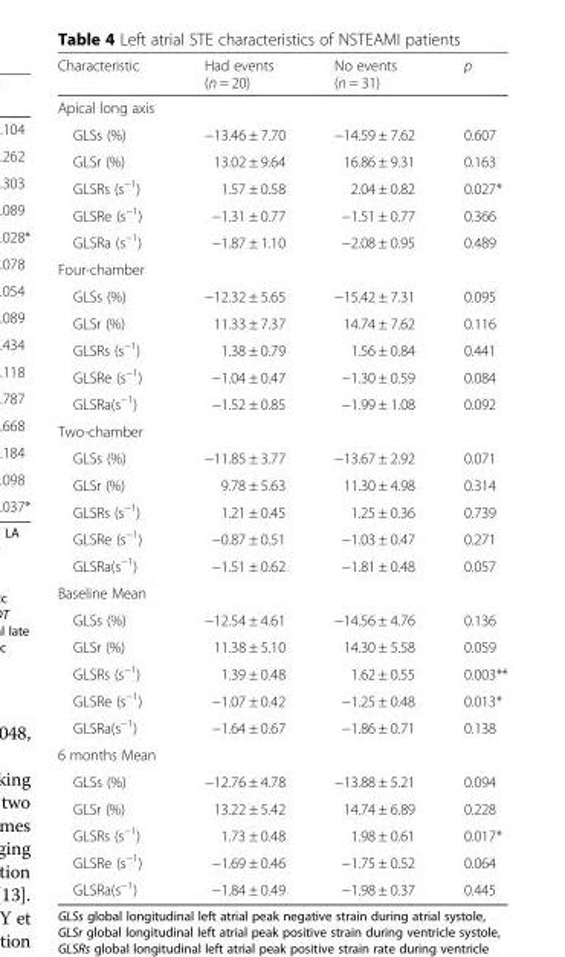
<table><thead><tr><td>Characteristic</td><td>Had events (n = 20)</td><td>No events (n = 31)</td><td>p</td></tr></thead><tbody><tr><td colspan="4">Apical long axis</td></tr><tr><td>GLSs (%)</td><td>−13.46 ± 7.70</td><td>−14.59 ± 7.62</td><td>0.607</td></tr><tr><td>GLSr (%)</td><td>13.02 ± 9.64</td><td>16.86 ± 9.31</td><td>0.163</td></tr><tr><td>GLSRs (s<sup>−1</sup>)</td><td>1.57 ± 0.58</td><td>2.04 ± 0.82</td><td>0.027*</td></tr><tr><td>GLSRe (s<sup>−1</sup>)</td><td>−1.31 ± 0.77</td><td>−1.51 ± 0.77</td><td>0.366</td></tr><tr><td>GLSRa (s<sup>−1</sup>)</td><td>−1.87 ± 1.10</td><td>−2.08 ± 0.95</td><td>0.489</td></tr><tr><td colspan="4">Four-chamber</td></tr><tr><td>GLSs (%)</td><td>−12.32 ± 5.65</td><td>−15.42 ± 7.31</td><td>0.095</td></tr><tr><td>GLSr (%)</td><td>11.33 ± 7.37</td><td>14.74 ± 7.62</td><td>0.116</td></tr><tr><td>GLSRs (s<sup>−1</sup>)</td><td>1.38 ± 0.79</td><td>1.56 ± 0.84</td><td>0.441</td></tr><tr><td>GLSRe (s<sup>−1</sup>)</td><td>−1.04 ± 0.47</td><td>−1.30 ± 0.59</td><td>0.084</td></tr><tr><td>GLSRa(s<sup>−1</sup>)</td><td>−1.52 ± 0.85</td><td>−1.99 ± 1.08</td><td>0.092</td></tr><tr><td colspan="4">Two-chamber</td></tr><tr><td>GLSs (%)</td><td>−11.85 ± 3.77</td><td>−13.67 ± 2.92</td><td>0.071</td></tr><tr><td>GLSr (%)</td><td>9.78 ± 5.63</td><td>11.30 ± 4.98</td><td>0.314</td></tr><tr><td>GLSRs (s<sup>−1</sup>)</td><td>1.21 ± 0.45</td><td>1.25 ± 0.36</td><td>0.739</td></tr><tr><td>GLSRe (s<sup>−1</sup>)</td><td>−0.87 ± 0.51</td><td>−1.03 ± 0.47</td><td>0.271</td></tr><tr><td>GLSRa(s<sup>−1</sup>)</td><td>−1.51 ± 0.62</td><td>−1.81 ± 0.48</td><td>0.057</td></tr><tr><td colspan="4">Baseline Mean</td></tr><tr><td>GLSs (%)</td><td>−12.54 ± 4.61</td><td>−14.56 ± 4.76</td><td>0.136</td></tr><tr><td>GLSr (%)</td><td>11.38 ± 5.10</td><td>14.30 ± 5.58</td><td>0.059</td></tr><tr><td>GLSRs (s<sup>−1</sup>)</td><td>1.39 ± 0.48</td><td>1.62 ± 0.55</td><td>0.003**</td></tr><tr><td>GLSRe (s<sup>−1</sup>)</td><td>−1.07 ± 0.42</td><td>−1.25 ± 0.48</td><td>0.013*</td></tr><tr><td>GLSRa(s<sup>−1</sup>)</td><td>−1.64 ± 0.67</td><td>−1.86 ± 0.71</td><td>0.138</td></tr><tr><td colspan="4">6 months Mean</td></tr><tr><td>GLSs (%)</td><td>−12.76 ± 4.78</td><td>−13.88 ± 5.21</td><td>0.094</td></tr><tr><td>GLSr (%)</td><td>13.22 ± 5.42</td><td>14.74 ± 6.89</td><td>0.228</td></tr><tr><td>GLSRs (s<sup>−1</sup>)</td><td>1.73 ± 0.48</td><td>1.98 ± 0.61</td><td>0.017*</td></tr><tr><td>GLSRe (s<sup>−1</sup>)</td><td>−1.69 ± 0.46</td><td>−1.75 ± 0.52</td><td>0.064</td></tr><tr><td>GLSRa(s<sup>−1</sup>)</td><td>−1.84 ± 0.49</td><td>−1.98 ± 0.37</td><td>0.445</td></tr></tbody></table>